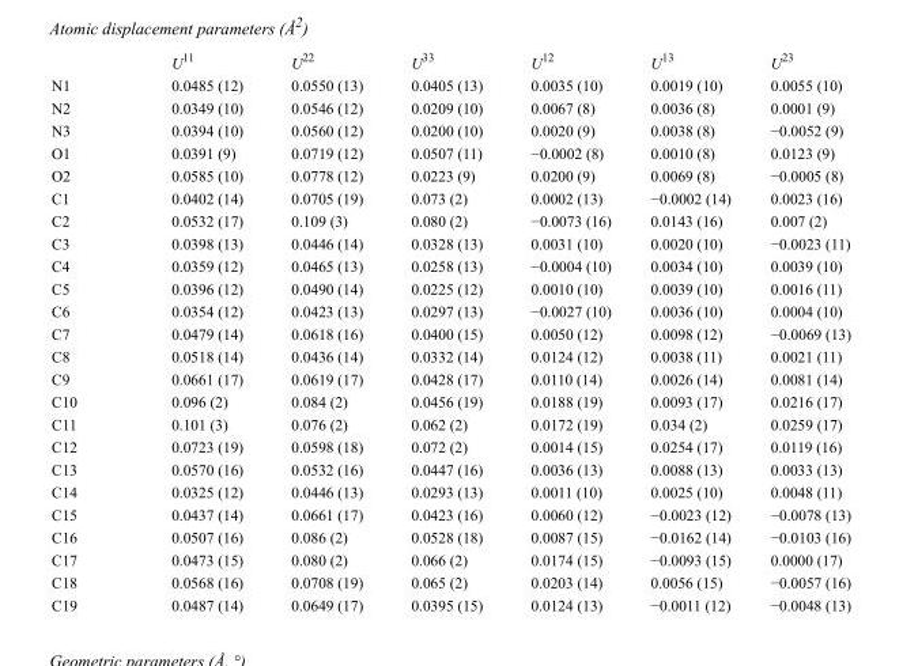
<table><thead><tr><td></td><td>U<sup>11</sup></td><td>U<sup>22</sup></td><td>U<sup>33</sup></td><td>U<sup>12</sup></td><td>U<sup>13</sup></td><td>U<sup>23</sup></td></tr></thead><tbody><tr><td>N1</td><td>0.0485 (12)</td><td>0.0550 (13)</td><td>0.0405 (13)</td><td>0.0035 (10)</td><td>0.0019 (10)</td><td>0.0055 (10)</td></tr><tr><td>N2</td><td>0.0349 (10)</td><td>0.0546 (12)</td><td>0.0209 (10)</td><td>0.0067 (8)</td><td>0.0036 (8)</td><td>0.0001 (9)</td></tr><tr><td>N3</td><td>0.0394 (10)</td><td>0.0560 (12)</td><td>0.0200 (10)</td><td>0.0020 (9)</td><td>0.0038 (8)</td><td>−0.0052 (9)</td></tr><tr><td>O1</td><td>0.0391 (9)</td><td>0.0719 (12)</td><td>0.0507 (11)</td><td>−0.0002 (8)</td><td>0.0010 (8)</td><td>0.0123 (9)</td></tr><tr><td>O2</td><td>0.0585 (10)</td><td>0.0778 (12)</td><td>0.0223 (9)</td><td>0.0200 (9)</td><td>0.0069 (8)</td><td>−0.0005 (8)</td></tr><tr><td>C1</td><td>0.0402 (14)</td><td>0.0705 (19)</td><td>0.073 (2)</td><td>0.0002 (13)</td><td>−0.0002 (14)</td><td>0.0023 (16)</td></tr><tr><td>C2</td><td>0.0532 (17)</td><td>0.109 (3)</td><td>0.080 (2)</td><td>−0.0073 (16)</td><td>0.0143 (16)</td><td>0.007 (2)</td></tr><tr><td>C3</td><td>0.0398 (13)</td><td>0.0446 (14)</td><td>0.0328 (13)</td><td>0.0031 (10)</td><td>0.0020 (10)</td><td>−0.0023 (11)</td></tr><tr><td>C4</td><td>0.0359 (12)</td><td>0.0465 (13)</td><td>0.0258 (13)</td><td>−0.0004 (10)</td><td>0.0034 (10)</td><td>0.0039 (10)</td></tr><tr><td>C5</td><td>0.0396 (12)</td><td>0.0490 (14)</td><td>0.0225 (12)</td><td>0.0010 (10)</td><td>0.0039 (10)</td><td>0.0016 (11)</td></tr><tr><td>C6</td><td>0.0354 (12)</td><td>0.0423 (13)</td><td>0.0297 (13)</td><td>−0.0027 (10)</td><td>0.0036 (10)</td><td>0.0004 (10)</td></tr><tr><td>C7</td><td>0.0479 (14)</td><td>0.0618 (16)</td><td>0.0400 (15)</td><td>0.0050 (12)</td><td>0.0098 (12)</td><td>−0.0069 (13)</td></tr><tr><td>C8</td><td>0.0518 (14)</td><td>0.0436 (14)</td><td>0.0332 (14)</td><td>0.0124 (12)</td><td>0.0038 (11)</td><td>0.0021 (11)</td></tr><tr><td>C9</td><td>0.0661 (17)</td><td>0.0619 (17)</td><td>0.0428 (17)</td><td>0.0110 (14)</td><td>0.0026 (14)</td><td>0.0081 (14)</td></tr><tr><td>C10</td><td>0.096 (2)</td><td>0.084 (2)</td><td>0.0456 (19)</td><td>0.0188 (19)</td><td>0.0093 (17)</td><td>0.0216 (17)</td></tr><tr><td>C11</td><td>0.101 (3)</td><td>0.076 (2)</td><td>0.062 (2)</td><td>0.0172 (19)</td><td>0.034 (2)</td><td>0.0259 (17)</td></tr><tr><td>C12</td><td>0.0723 (19)</td><td>0.0598 (18)</td><td>0.072 (2)</td><td>0.0014 (15)</td><td>0.0254 (17)</td><td>0.0119 (16)</td></tr><tr><td>C13</td><td>0.0570 (16)</td><td>0.0532 (16)</td><td>0.0447 (16)</td><td>0.0036 (13)</td><td>0.0088 (13)</td><td>0.0033 (13)</td></tr><tr><td>C14</td><td>0.0325 (12)</td><td>0.0446 (13)</td><td>0.0293 (13)</td><td>0.0011 (10)</td><td>0.0025 (10)</td><td>0.0048 (11)</td></tr><tr><td>C15</td><td>0.0437 (14)</td><td>0.0661 (17)</td><td>0.0423 (16)</td><td>0.0060 (12)</td><td>−0.0023 (12)</td><td>−0.0078 (13)</td></tr><tr><td>C16</td><td>0.0507 (16)</td><td>0.086 (2)</td><td>0.0528 (18)</td><td>0.0087 (15)</td><td>−0.0162 (14)</td><td>−0.0103 (16)</td></tr><tr><td>C17</td><td>0.0473 (15)</td><td>0.080 (2)</td><td>0.066 (2)</td><td>0.0174 (15)</td><td>−0.0093 (15)</td><td>0.0000 (17)</td></tr><tr><td>C18</td><td>0.0568 (16)</td><td>0.0708 (19)</td><td>0.065 (2)</td><td>0.0203 (14)</td><td>0.0056 (15)</td><td>−0.0057 (16)</td></tr><tr><td>C19</td><td>0.0487 (14)</td><td>0.0649 (17)</td><td>0.0395 (15)</td><td>0.0124 (13)</td><td>−0.0011 (12)</td><td>−0.0048 (13)</td></tr></tbody></table>